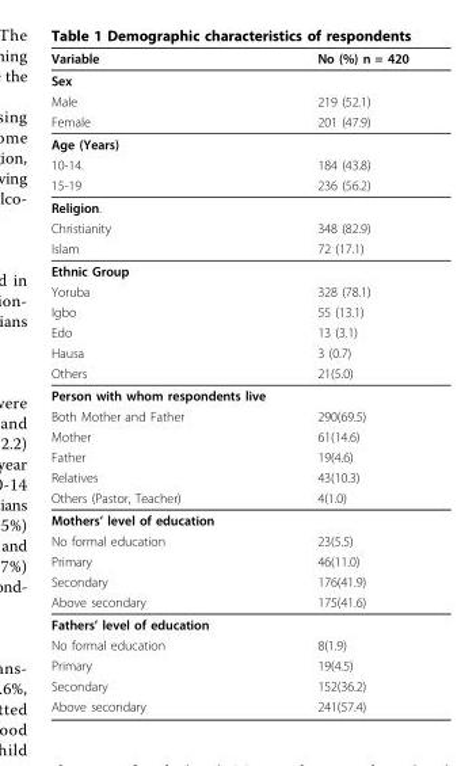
<table><thead><tr><td>Variable</td><td>No (%) n = 420</td></tr></thead><tbody><tr><td colspan="2">Sex</td></tr><tr><td>Male</td><td>219 (52.1)</td></tr><tr><td>Female</td><td>201 (47.9)</td></tr><tr><td colspan="2">Age (Years)</td></tr><tr><td>10-14.</td><td>184 (43.8)</td></tr><tr><td>15-19</td><td>236 (56.2)</td></tr><tr><td colspan="2">Religion.</td></tr><tr><td>Christianity</td><td>348 (82.9)</td></tr><tr><td>Islam</td><td>72 (17.1)</td></tr><tr><td colspan="2">Ethnic Group</td></tr><tr><td>Yoruba</td><td>328 (78.1)</td></tr><tr><td>Igbo</td><td>55 (13.1)</td></tr><tr><td>Edo</td><td>13 (3.1)</td></tr><tr><td>Hausa</td><td>3 (0.7)</td></tr><tr><td>Others</td><td>21(5.0)</td></tr><tr><td colspan="2">Person with whom respondents live</td></tr><tr><td>Both Mother and Father</td><td>290(69.5)</td></tr><tr><td>Mother</td><td>61(14.6)</td></tr><tr><td>Father</td><td>19(4.6)</td></tr><tr><td>Relatives</td><td>43(10.3)</td></tr><tr><td>Others (Pastor, Teacher)</td><td>4(1.0)</td></tr><tr><td colspan="2">Mothers’ level of education</td></tr><tr><td>No formal education</td><td>23(5.5)</td></tr><tr><td>Primary</td><td>46(11.0)</td></tr><tr><td>Secondary</td><td>176(41.9)</td></tr><tr><td>Above secondary</td><td>175(41.6)</td></tr><tr><td colspan="2">Fathers’ level of education</td></tr><tr><td>No formal education</td><td>8(1.9)</td></tr><tr><td>Primary</td><td>19(4.5)</td></tr><tr><td>Secondary</td><td>152(36.2)</td></tr><tr><td>Above secondary</td><td>241(57.4)</td></tr></tbody></table>